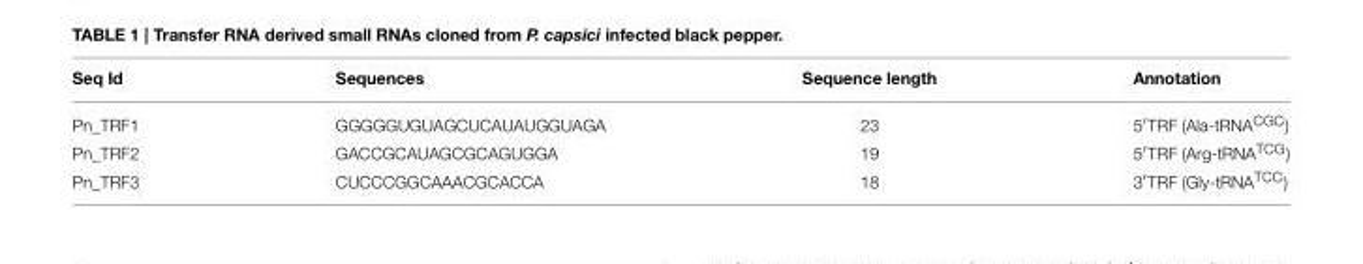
<table><thead><tr><td>Seq Id</td><td>Sequences</td><td>Sequence length</td><td>Annotation</td></tr></thead><tbody><tr><td>Pn_TRF1</td><td>GGGGGUGUAGCUCAUAUGGUAGA</td><td>23</td><td>5′TRF (Ala-tRNA<sup>CGC</sup>)</td></tr><tr><td>Pn_TRF2</td><td>GACCGCAUAGCGCAGUGGA</td><td>19</td><td>5′TRF (Arg-tRNA<sup>TCG</sup>)</td></tr><tr><td>Pn_TRF3</td><td>CUCCCGGCAAACGCACCA</td><td>18</td><td>3′TRF (Gly-tRNA<sup>TCC</sup>)</td></tr></tbody></table>